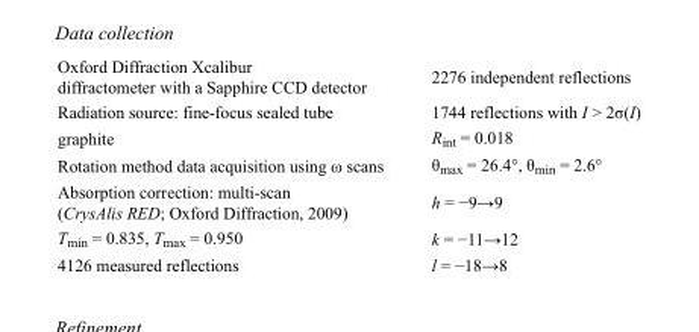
<table><tbody><tr><td>Oxford Diffraction Xcalibur diffractometer with a Sapphire CCD detector</td><td>2276 independent reflections</td></tr><tr><td>Radiation source: fine-focus sealed tube</td><td>1744 reflections with I &gt; 2σ(I)</td></tr><tr><td>graphite</td><td>R<sub>int</sub> = 0.018</td></tr><tr><td>Rotation method data acquisition using ω scans</td><td>θ<sub>max</sub> = 26.4°, θ<sub>min</sub> = 2.6°</td></tr><tr><td>Absorption correction: multi-scan (CrysAlis RED; Oxford Diffraction, 2009)</td><td>h = −9→9</td></tr><tr><td>T<sub>min</sub> = 0.835, T<sub>max</sub> = 0.950</td><td>k = −11→12</td></tr><tr><td>4126 measured reflections</td><td>l = −18→8</td></tr></tbody></table>